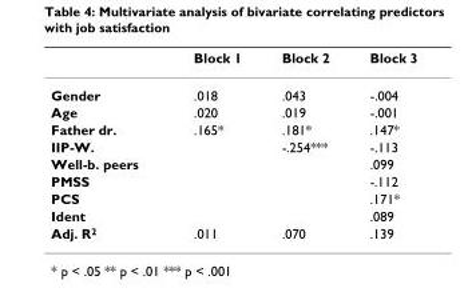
<table><thead><tr><td></td><td>Block 1</td><td>Block 2</td><td>Block 3</td></tr></thead><tbody><tr><td>Gender</td><td>.018</td><td>.043</td><td>-.004</td></tr><tr><td>Age</td><td>.020</td><td>.019</td><td>-.001</td></tr><tr><td>Father dr.</td><td>.165*</td><td>.181*</td><td>.147*</td></tr><tr><td>IIP-W.</td><td></td><td>-.254***</td><td>-.113</td></tr><tr><td>Well-b. peers</td><td></td><td></td><td>.099</td></tr><tr><td>PMSS</td><td></td><td></td><td>-.112</td></tr><tr><td>PCS</td><td></td><td></td><td>.171*</td></tr><tr><td>Ident</td><td></td><td></td><td>.089</td></tr><tr><td>Adj. R<sup>2</sup></td><td>.011</td><td>.070</td><td>.139</td></tr></tbody></table>